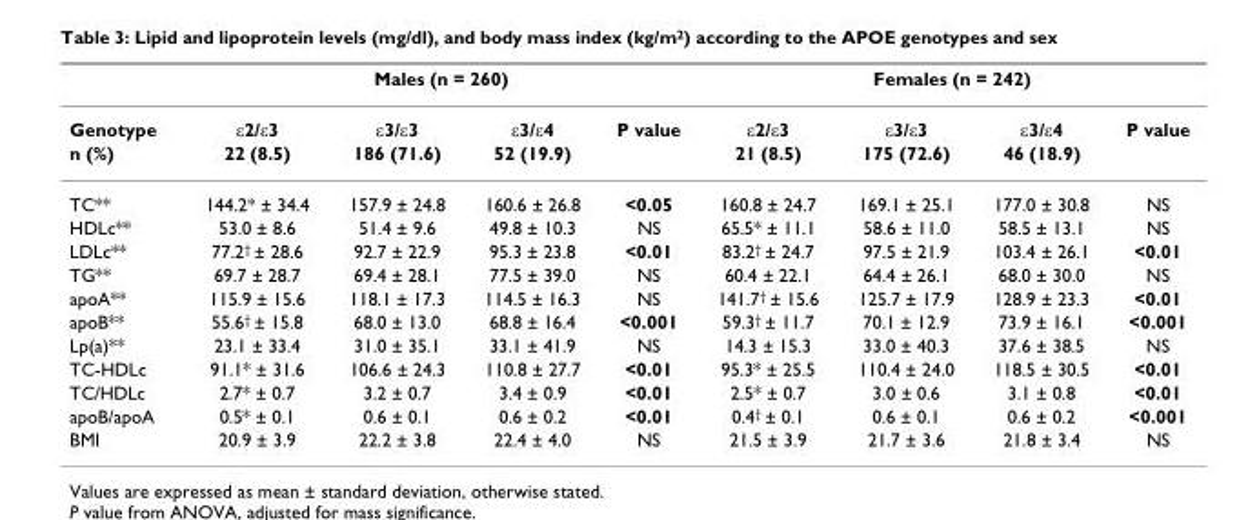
<table><thead><tr><td rowspan="2">Genotype</td><td colspan="4">Males (n = 260)</td><td colspan="4">Females (n = 242)</td></tr><tr><td>ε2/ε3</td><td>ε3/ε3</td><td>ε3/ε4</td><td>P value</td><td>ε2/ε3</td><td>ε3/ε3</td><td>ε3/ε4</td><td>P value</td></tr></thead><tbody><tr><td>n (%)</td><td>22 (8.5)</td><td>186 (71.6)</td><td>52 (19.9)</td><td></td><td>21 (8.5)</td><td>175 (72.6)</td><td>46 (18.9)</td><td></td></tr><tr><td>TC**</td><td>144.2* ± 34.4</td><td>157.9 ± 24.8</td><td>160.6 ± 26.8</td><td>&lt;0.05</td><td>160.8 ± 24.7</td><td>169.1 ± 25.1</td><td>177.0 ± 30.8</td><td>NS</td></tr><tr><td>HDLc**</td><td>53.0 ± 8.6</td><td>51.4 ± 9.6</td><td>49.8 ± 10.3</td><td>NS</td><td>65.5* ± 11.1</td><td>58.6 ± 11.0</td><td>58.5 ± 13.1</td><td>NS</td></tr><tr><td>LDLc**</td><td>77.2<sup>†</sup> ± 28.6</td><td>92.7 ± 22.9</td><td>95.3 ± 23.8</td><td>&lt;0.01</td><td>83.2<sup>†</sup> ± 24.7</td><td>97.5 ± 21.9</td><td>103.4 ± 26.1</td><td>&lt;0.01</td></tr><tr><td>TG**</td><td>69.7 ± 28.7</td><td>69.4 ± 28.1</td><td>77.5 ± 39.0</td><td>NS</td><td>60.4 ± 22.1</td><td>64.4 ± 26.1</td><td>68.0 ± 30.0</td><td>NS</td></tr><tr><td>apoA**</td><td>115.9 ± 15.6</td><td>118.1 ± 17.3</td><td>114.5 ± 16.3</td><td>NS</td><td>141.7<sup>†</sup> ± 15.6</td><td>125.7 ± 17.9</td><td>128.9 ± 23.3</td><td>&lt;0.01</td></tr><tr><td>apoB**</td><td>55.6<sup>†</sup> ± 15.8</td><td>68.0 ± 13.0</td><td>68.8 ± 16.4</td><td>&lt;0.001</td><td>59.3<sup>†</sup> ± 11.7</td><td>70.1 ± 12.9</td><td>73.9 ± 16.1</td><td>&lt;0.001</td></tr><tr><td>Lp(a)**</td><td>23.1 ± 33.4</td><td>31.0 ± 35.1</td><td>33.1 ± 41.9</td><td>NS</td><td>14.3 ± 15.3</td><td>33.0 ± 40.3</td><td>37.6 ± 38.5</td><td>NS</td></tr><tr><td>TC-HDLc</td><td>91.1* ± 31.6</td><td>106.6 ± 24.3</td><td>110.8 ± 27.7</td><td>&lt;0.01</td><td>95.3* ± 25.5</td><td>110.4 ± 24.0</td><td>118.5 ± 30.5</td><td>&lt;0.01</td></tr><tr><td>TC/HDLc</td><td>2.7* ± 0.7</td><td>3.2 ± 0.7</td><td>3.4 ± 0.9</td><td>&lt;0.01</td><td>2.5* ± 0.7</td><td>3.0 ± 0.6</td><td>3.1 ± 0.8</td><td>&lt;0.01</td></tr><tr><td>apoB/apoA</td><td>0.5* ± 0.1</td><td>0.6 ± 0.1</td><td>0.6 ± 0.2</td><td>&lt;0.01</td><td>0.4<sup>†</sup> ± 0.1</td><td>0.6 ± 0.1</td><td>0.6 ± 0.2</td><td>&lt;0.001</td></tr><tr><td>BMI</td><td>20.9 ± 3.9</td><td>22.2 ± 3.8</td><td>22.4 ± 4.0</td><td>NS</td><td>21.5 ± 3.9</td><td>21.7 ± 3.6</td><td>21.8 ± 3.4</td><td>NS</td></tr></tbody></table>